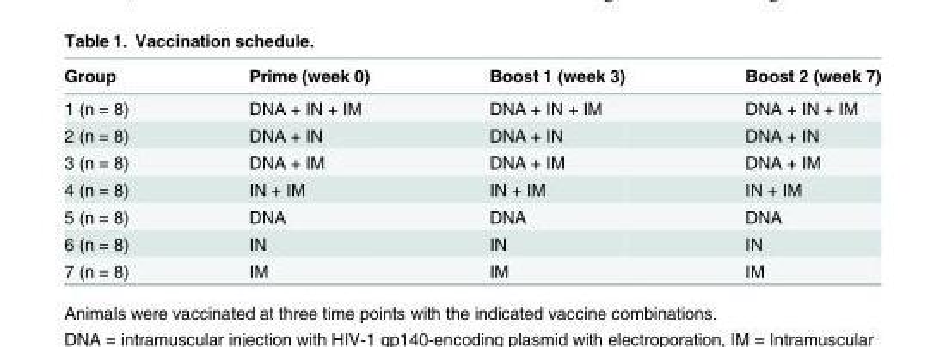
<table><thead><tr><td>Group</td><td>Prime (week 0)</td><td>Boost 1 (week 3)</td><td>Boost 2 (week 7)</td></tr></thead><tbody><tr><td>1 (n = 8)</td><td>DNA + IN + IM</td><td>DNA + IN + IM</td><td>DNA + IN + IM</td></tr><tr><td>2 (n = 8)</td><td>DNA + IN</td><td>DNA + IN</td><td>DNA + IN</td></tr><tr><td>3 (n = 8)</td><td>DNA + IM</td><td>DNA + IM</td><td>DNA + IM</td></tr><tr><td>4 (n = 8)</td><td>IN + IM</td><td>IN + IM</td><td>IN + IM</td></tr><tr><td>5 (n = 8)</td><td>DNA</td><td>DNA</td><td>DNA</td></tr><tr><td>6 (n = 8)</td><td>IN</td><td>IN</td><td>IN</td></tr><tr><td>7 (n = 8)</td><td>IM</td><td>IM</td><td>IM</td></tr></tbody></table>